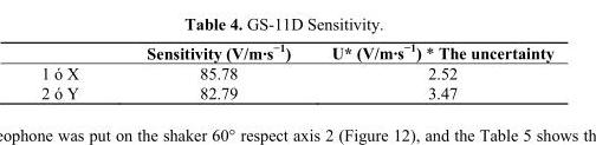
<table><thead><tr><td></td><td>Sensitivity (V/m·s<sup>−1</sup>)</td><td>U* (V/m·s−1) * The uncertainty</td></tr></thead><tbody><tr><td>1 ó X</td><td>85.78</td><td>2.52</td></tr><tr><td>2 ó Y</td><td>82.79</td><td>3.47</td></tr></tbody></table>